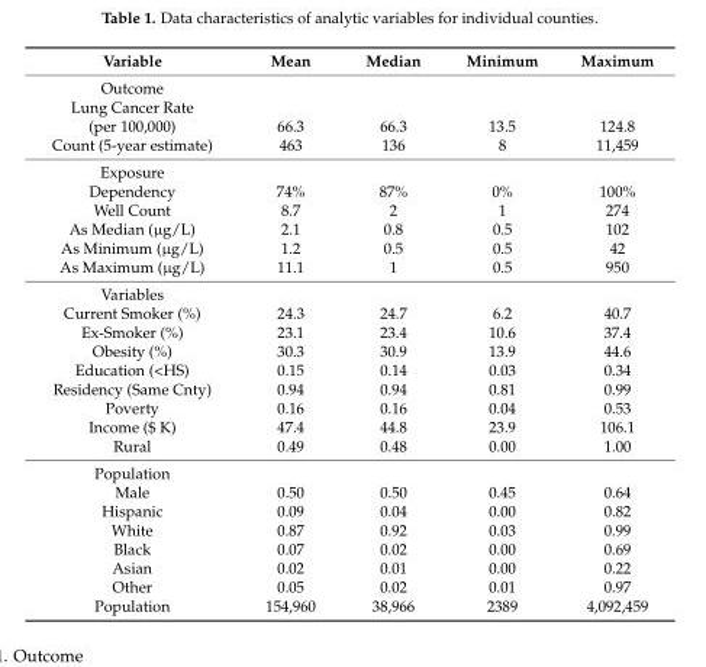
<table><thead><tr><td>Variable</td><td>Mean</td><td>Median</td><td>Minimum</td><td>Maximum</td></tr></thead><tbody><tr><td colspan="5">Outcome</td></tr><tr><td colspan="5">Lung Cancer Rate</td></tr><tr><td>(per 100,000)</td><td>66.3</td><td>66.3</td><td>13.5</td><td>124.8</td></tr><tr><td>Count (5-year estimate)</td><td>463</td><td>136</td><td>8</td><td>11,459</td></tr><tr><td colspan="5">Exposure</td></tr><tr><td>Dependency</td><td>74%</td><td>87%</td><td>0%</td><td>100%</td></tr><tr><td>Well Count</td><td>8.7</td><td>2</td><td>1</td><td>274</td></tr><tr><td>As Median (µg/L)</td><td>2.1</td><td>0.8</td><td>0.5</td><td>102</td></tr><tr><td>As Minimum (µg/L)</td><td>1.2</td><td>0.5</td><td>0.5</td><td>42</td></tr><tr><td>As Maximum (µg/L)</td><td>11.1</td><td>1</td><td>0.5</td><td>950</td></tr><tr><td colspan="5">Variables</td></tr><tr><td>Current Smoker (%)</td><td>24.3</td><td>24.7</td><td>6.2</td><td>40.7</td></tr><tr><td>Ex-Smoker (%)</td><td>23.1</td><td>23.4</td><td>10.6</td><td>37.4</td></tr><tr><td>Obesity (%)</td><td>30.3</td><td>30.9</td><td>13.9</td><td>44.6</td></tr><tr><td>Education (&lt;HS)</td><td>0.15</td><td>0.14</td><td>0.03</td><td>0.34</td></tr><tr><td>Residency (Same Cnty)</td><td>0.94</td><td>0.94</td><td>0.81</td><td>0.99</td></tr><tr><td>Poverty</td><td>0.16</td><td>0.16</td><td>0.04</td><td>0.53</td></tr><tr><td>Income ($ K)</td><td>47.4</td><td>44.8</td><td>23.9</td><td>106.1</td></tr><tr><td>Rural</td><td>0.49</td><td>0.48</td><td>0.00</td><td>1.00</td></tr><tr><td colspan="5">Population</td></tr><tr><td>Male</td><td>0.50</td><td>0.50</td><td>0.45</td><td>0.64</td></tr><tr><td>Hispanic</td><td>0.09</td><td>0.04</td><td>0.00</td><td>0.82</td></tr><tr><td>White</td><td>0.87</td><td>0.92</td><td>0.03</td><td>0.99</td></tr><tr><td>Black</td><td>0.07</td><td>0.02</td><td>0.00</td><td>0.69</td></tr><tr><td>Asian</td><td>0.02</td><td>0.01</td><td>0.00</td><td>0.22</td></tr><tr><td>Other</td><td>0.05</td><td>0.02</td><td>0.01</td><td>0.97</td></tr><tr><td>Population</td><td>154,960</td><td>38,966</td><td>2389</td><td>4,092,459</td></tr></tbody></table>